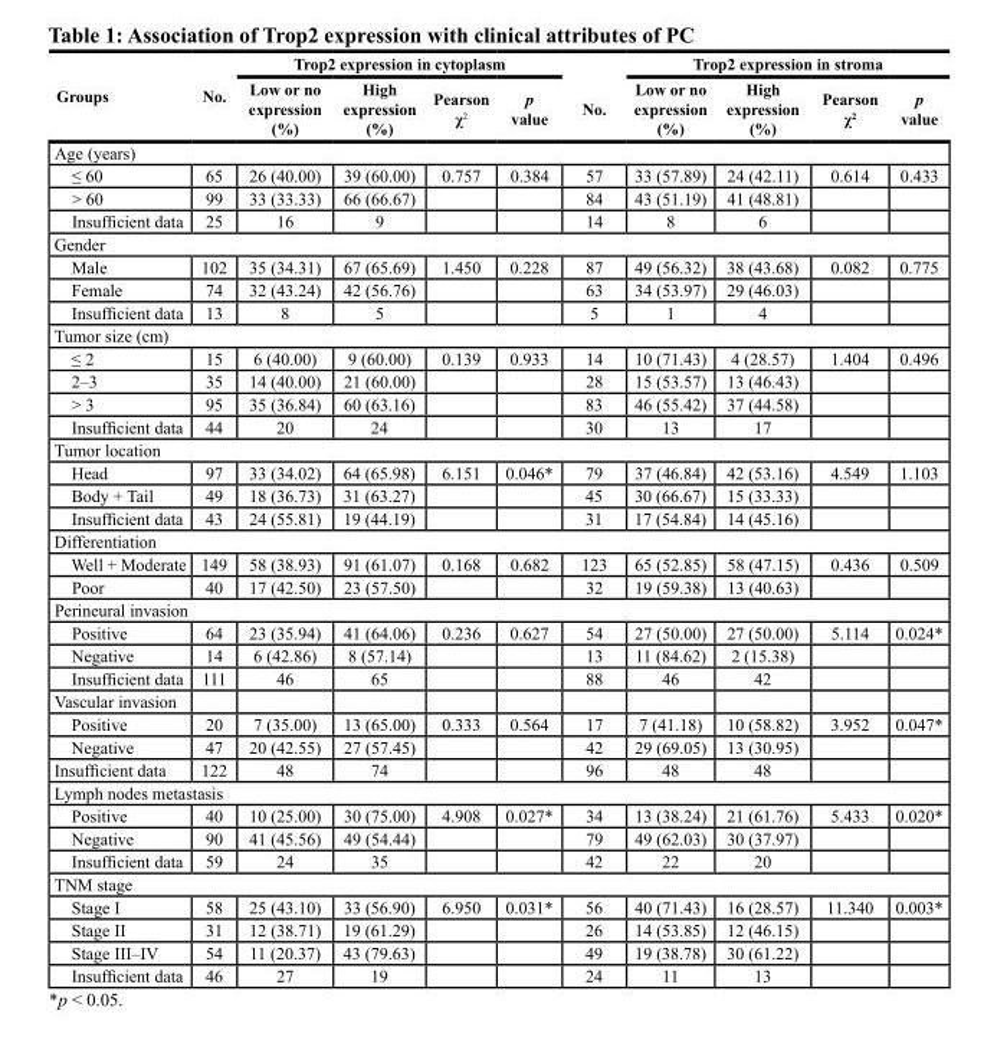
<table><thead><tr><td rowspan="2">Groups</td><td rowspan="2">no.</td><td colspan="4">trop2 expression in cytoplasm</td><td rowspan="2">no.</td><td colspan="4">trop2 expression in stroma</td></tr><tr><td>low or no expression (%)</td><td>High expression (%)</td><td>Pearson χ<sup>2</sup></td><td>p value</td><td>low or no expression (%)</td><td>High expression (%)</td><td>Pearson χ<sup>2</sup></td><td>p value</td></tr></thead><tbody><tr><td colspan="11">Age (years)</td></tr><tr><td>≤ 60</td><td>65</td><td>26 (40.00)</td><td>39 (60.00)</td><td>0.757</td><td>0.384</td><td>57</td><td>33 (57.89)</td><td>24 (42.11)</td><td>0.614</td><td>0.433</td></tr><tr><td>&gt; 60</td><td>99</td><td>33 (33.33)</td><td>66 (66.67)</td><td></td><td></td><td>84</td><td>43 (51.19)</td><td>41 (48.81)</td><td></td><td></td></tr><tr><td>Insufficient data</td><td>25</td><td>16</td><td>9</td><td></td><td></td><td>14</td><td>8</td><td>6</td><td></td><td></td></tr><tr><td colspan="11">Gender</td></tr><tr><td>Male</td><td>102</td><td>35 (34.31)</td><td>67 (65.69)</td><td>1.450</td><td>0.228</td><td>87</td><td>49 (56.32)</td><td>38 (43.68)</td><td>0.082</td><td>0.775</td></tr><tr><td>Female</td><td>74</td><td>32 (43.24)</td><td>42 (56.76)</td><td></td><td></td><td>63</td><td>34 (53.97)</td><td>29 (46.03)</td><td></td><td></td></tr><tr><td>Insufficient data</td><td>13</td><td>8</td><td>5</td><td></td><td></td><td>5</td><td>1</td><td>4</td><td></td><td></td></tr><tr><td colspan="11">Tumor size (cm)</td></tr><tr><td>≤ 2</td><td>15</td><td>6 (40.00)</td><td>9 (60.00)</td><td>0.139</td><td>0.933</td><td>14</td><td>10 (71.43)</td><td>4 (28.57)</td><td>1.404</td><td>0.496</td></tr><tr><td>2–3</td><td>35</td><td>14 (40.00)</td><td>21 (60.00)</td><td></td><td></td><td>28</td><td>15 (53.57)</td><td>13 (46.43)</td><td></td><td></td></tr><tr><td>&gt; 3</td><td>95</td><td>35 (36.84)</td><td>60 (63.16)</td><td></td><td></td><td>83</td><td>46 (55.42)</td><td>37 (44.58)</td><td></td><td></td></tr><tr><td>Insufficient data</td><td>44</td><td>20</td><td>24</td><td></td><td></td><td>30</td><td>13</td><td>17</td><td></td><td></td></tr><tr><td colspan="11">Tumor location</td></tr><tr><td>Head</td><td>97</td><td>33 (34.02)</td><td>64 (65.98)</td><td>6.151</td><td>0.046*</td><td>79</td><td>37 (46.84)</td><td>42 (53.16)</td><td>4.549</td><td>1.103</td></tr><tr><td>Body + Tail</td><td>49</td><td>18 (36.73)</td><td>31 (63.27)</td><td></td><td></td><td>45</td><td>30 (66.67)</td><td>15 (33.33)</td><td></td><td></td></tr><tr><td>Insufficient data</td><td>43</td><td>24 (55.81)</td><td>19 (44.19)</td><td></td><td></td><td>31</td><td>17 (54.84)</td><td>14 (45.16)</td><td></td><td></td></tr><tr><td colspan="11">Differentiation</td></tr><tr><td>Well + Moderate</td><td>149</td><td>58 (38.93)</td><td>91 (61.07)</td><td>0.168</td><td>0.682</td><td>123</td><td>65 (52.85)</td><td>58 (47.15)</td><td>0.436</td><td>0.509</td></tr><tr><td>Poor</td><td>40</td><td>17 (42.50)</td><td>23 (57.50)</td><td></td><td></td><td>32</td><td>19 (59.38)</td><td>13 (40.63)</td><td></td><td></td></tr><tr><td colspan="11">Perineural invasion</td></tr><tr><td>Positive</td><td>64</td><td>23 (35.94)</td><td>41 (64.06)</td><td>0.236</td><td>0.627</td><td>54</td><td>27 (50.00)</td><td>27 (50.00)</td><td>5.114</td><td>0.024*</td></tr><tr><td>Negative</td><td>14</td><td>6 (42.86)</td><td>8 (57.14)</td><td></td><td></td><td>13</td><td>11 (84.62)</td><td>2 (15.38)</td><td></td><td></td></tr><tr><td>Insufficient data</td><td>111</td><td>46</td><td>65</td><td></td><td></td><td>88</td><td>46</td><td>42</td><td></td><td></td></tr><tr><td colspan="11">Vascular invasion</td></tr><tr><td>Positive</td><td>20</td><td>7 (35.00)</td><td>13 (65.00)</td><td>0.333</td><td>0.564</td><td>17</td><td>7 (41.18)</td><td>10 (58.82)</td><td>3.952</td><td>0.047*</td></tr><tr><td>Negative</td><td>47</td><td>20 (42.55)</td><td>27 (57.45)</td><td></td><td></td><td>42</td><td>29 (69.05)</td><td>13 (30.95)</td><td></td><td></td></tr><tr><td>Insufficient data</td><td>122</td><td>48</td><td>74</td><td></td><td></td><td>96</td><td>48</td><td>48</td><td></td><td></td></tr><tr><td colspan="11">Lymph nodes metastasis</td></tr><tr><td>Positive</td><td>40</td><td>10 (25.00)</td><td>30 (75.00)</td><td>4.908</td><td>0.027*</td><td>34</td><td>13 (38.24)</td><td>21 (61.76)</td><td>5.433</td><td>0.020*</td></tr><tr><td>Negative</td><td>90</td><td>41 (45.56)</td><td>49 (54.44)</td><td></td><td></td><td>79</td><td>49 (62.03)</td><td>30 (37.97)</td><td></td><td></td></tr><tr><td>Insufficient data</td><td>59</td><td>24</td><td>35</td><td></td><td></td><td>42</td><td>22</td><td>20</td><td></td><td></td></tr><tr><td colspan="11">TNM stage</td></tr><tr><td>Stage I</td><td>58</td><td>25 (43.10)</td><td>33 (56.90)</td><td>6.950</td><td>0.031*</td><td>56</td><td>40 (71.43)</td><td>16 (28.57)</td><td>11.340</td><td>0.003*</td></tr><tr><td>Stage II</td><td>31</td><td>12 (38.71)</td><td>19 (61.29)</td><td></td><td></td><td>26</td><td>14 (53.85)</td><td>12 (46.15)</td><td></td><td></td></tr><tr><td>Stage III–IV</td><td>54</td><td>11 (20.37)</td><td>43 (79.63)</td><td></td><td></td><td>49</td><td>19 (38.78)</td><td>30 (61.22)</td><td></td><td></td></tr><tr><td>Insufficient data</td><td>46</td><td>27</td><td>19</td><td></td><td></td><td>24</td><td>11</td><td>13</td><td></td><td></td></tr></tbody></table>